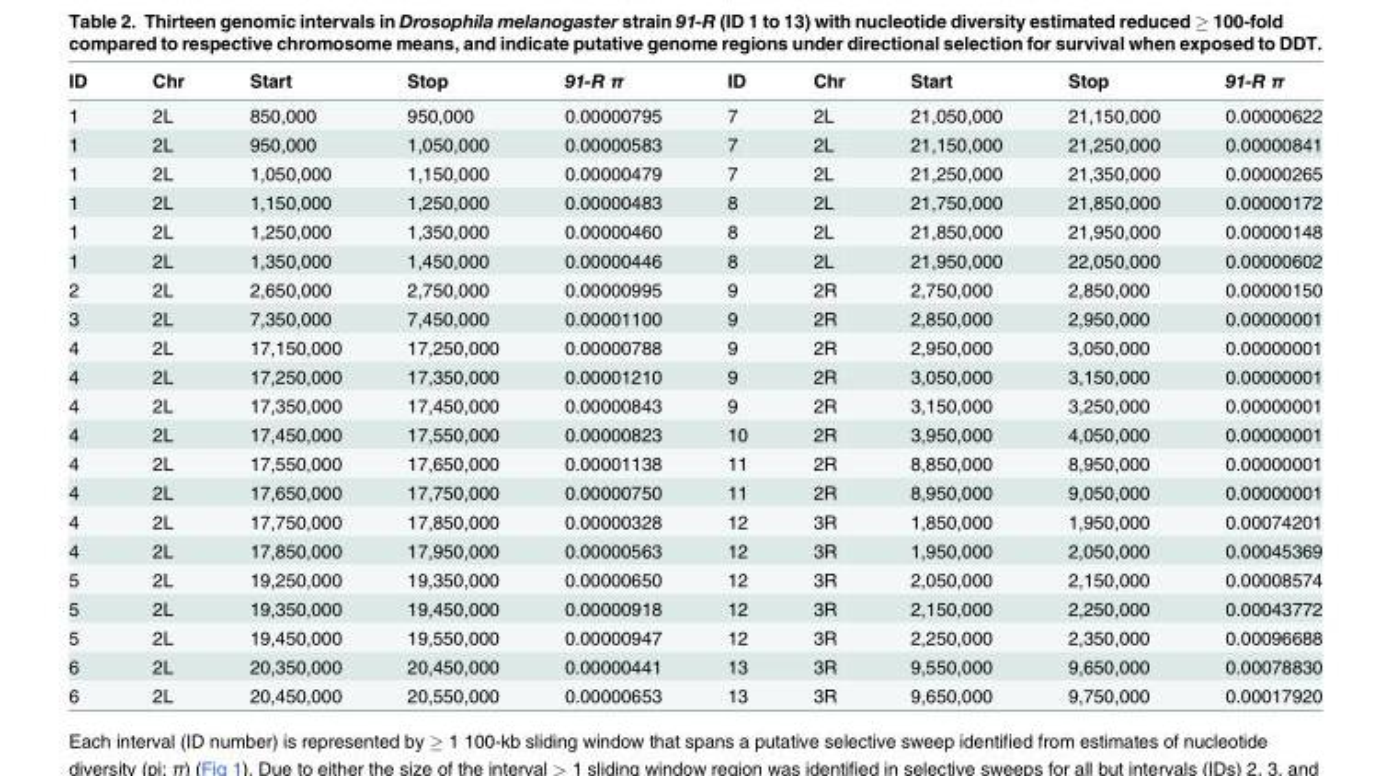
<table><thead><tr><td>ID</td><td>Chr</td><td>Start</td><td>Stop</td><td>91-R π</td><td>ID</td><td>Chr</td><td>Start</td><td>Stop</td><td>91-R π</td></tr></thead><tbody><tr><td>1</td><td>2L</td><td>850,000</td><td>950,000</td><td>0.00000795</td><td>7</td><td>2L</td><td>21,050,000</td><td>21,150,000</td><td>0.00000622</td></tr><tr><td>1</td><td>2L</td><td>950,000</td><td>1,050,000</td><td>0.00000583</td><td>7</td><td>2L</td><td>21,150,000</td><td>21,250,000</td><td>0.00000841</td></tr><tr><td>1</td><td>2L</td><td>1,050,000</td><td>1,150,000</td><td>0.00000479</td><td>7</td><td>2L</td><td>21,250,000</td><td>21,350,000</td><td>0.00000265</td></tr><tr><td>1</td><td>2L</td><td>1,150,000</td><td>1,250,000</td><td>0.00000483</td><td>8</td><td>2L</td><td>21,750,000</td><td>21,850,000</td><td>0.00000172</td></tr><tr><td>1</td><td>2L</td><td>1,250,000</td><td>1,350,000</td><td>0.00000460</td><td>8</td><td>2L</td><td>21,850,000</td><td>21,950,000</td><td>0.00000148</td></tr><tr><td>1</td><td>2L</td><td>1,350,000</td><td>1,450,000</td><td>0.00000446</td><td>8</td><td>2L</td><td>21,950,000</td><td>22,050,000</td><td>0.00000602</td></tr><tr><td>2</td><td>2L</td><td>2,650,000</td><td>2,750,000</td><td>0.00000995</td><td>9</td><td>2R</td><td>2,750,000</td><td>2,850,000</td><td>0.00000150</td></tr><tr><td>3</td><td>2L</td><td>7,350,000</td><td>7,450,000</td><td>0.00001100</td><td>9</td><td>2R</td><td>2,850,000</td><td>2,950,000</td><td>0.00000001</td></tr><tr><td>4</td><td>2L</td><td>17,150,000</td><td>17,250,000</td><td>0.00000788</td><td>9</td><td>2R</td><td>2,950,000</td><td>3,050,000</td><td>0.00000001</td></tr><tr><td>4</td><td>2L</td><td>17,250,000</td><td>17,350,000</td><td>0.00001210</td><td>9</td><td>2R</td><td>3,050,000</td><td>3,150,000</td><td>0.00000001</td></tr><tr><td>4</td><td>2L</td><td>17,350,000</td><td>17,450,000</td><td>0.00000843</td><td>9</td><td>2R</td><td>3,150,000</td><td>3,250,000</td><td>0.00000001</td></tr><tr><td>4</td><td>2L</td><td>17,450,000</td><td>17,550,000</td><td>0.00000823</td><td>10</td><td>2R</td><td>3,950,000</td><td>4,050,000</td><td>0.00000001</td></tr><tr><td>4</td><td>2L</td><td>17,550,000</td><td>17,650,000</td><td>0.00001138</td><td>11</td><td>2R</td><td>8,850,000</td><td>8,950,000</td><td>0.00000001</td></tr><tr><td>4</td><td>2L</td><td>17,650,000</td><td>17,750,000</td><td>0.00000750</td><td>11</td><td>2R</td><td>8,950,000</td><td>9,050,000</td><td>0.00000001</td></tr><tr><td>4</td><td>2L</td><td>17,750,000</td><td>17,850,000</td><td>0.00000328</td><td>12</td><td>3R</td><td>1,850,000</td><td>1,950,000</td><td>0.00074201</td></tr><tr><td>4</td><td>2L</td><td>17,850,000</td><td>17,950,000</td><td>0.00000563</td><td>12</td><td>3R</td><td>1,950,000</td><td>2,050,000</td><td>0.00045369</td></tr><tr><td>5</td><td>2L</td><td>19,250,000</td><td>19,350,000</td><td>0.00000650</td><td>12</td><td>3R</td><td>2,050,000</td><td>2,150,000</td><td>0.00008574</td></tr><tr><td>5</td><td>2L</td><td>19,350,000</td><td>19,450,000</td><td>0.00000918</td><td>12</td><td>3R</td><td>2,150,000</td><td>2,250,000</td><td>0.00043772</td></tr><tr><td>5</td><td>2L</td><td>19,450,000</td><td>19,550,000</td><td>0.00000947</td><td>12</td><td>3R</td><td>2,250,000</td><td>2,350,000</td><td>0.00096688</td></tr><tr><td>6</td><td>2L</td><td>20,350,000</td><td>20,450,000</td><td>0.00000441</td><td>13</td><td>3R</td><td>9,550,000</td><td>9,650,000</td><td>0.00078830</td></tr><tr><td>6</td><td>2L</td><td>20,450,000</td><td>20,550,000</td><td>0.00000653</td><td>13</td><td>3R</td><td>9,650,000</td><td>9,750,000</td><td>0.00017920</td></tr></tbody></table>